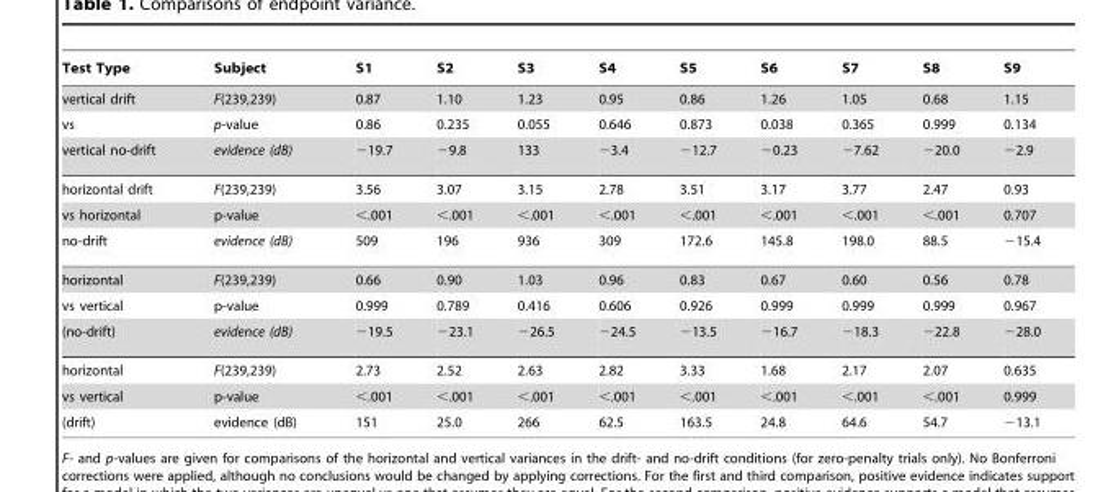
<table><thead><tr><td>Test Type</td><td>Subject</td><td>S1</td><td>S2</td><td>S3</td><td>S4</td><td>S5</td><td>S6</td><td>S7</td><td>S8</td><td>S9</td></tr></thead><tbody><tr><td>vertical drift</td><td>F(239,239)</td><td>0.87</td><td>1.10</td><td>1.23</td><td>0.95</td><td>0.86</td><td>1.26</td><td>1.05</td><td>0.68</td><td>1.15</td></tr><tr><td>vs</td><td>p-value</td><td>0.86</td><td>0.235</td><td>0.055</td><td>0.646</td><td>0.873</td><td>0.038</td><td>0.365</td><td>0.999</td><td>0.134</td></tr><tr><td>vertical no-drift</td><td>evidence (dB)</td><td>−19.7</td><td>−9.8</td><td>133</td><td>−3.4</td><td>−12.7</td><td>−0.23</td><td>−7.62</td><td>−20.0</td><td>−2.9</td></tr><tr><td>horizontal drift</td><td>F(239,239)</td><td>3.56</td><td>3.07</td><td>3.15</td><td>2.78</td><td>3.51</td><td>3.17</td><td>3.77</td><td>2.47</td><td>0.93</td></tr><tr><td>vs horizontal</td><td>p-value</td><td>&lt;.001</td><td>&lt;.001</td><td>&lt;.001</td><td>&lt;.001</td><td>&lt;.001</td><td>&lt;.001</td><td>&lt;.001</td><td>&lt;.001</td><td>0.707</td></tr><tr><td>no-drift</td><td>evidence (dB)</td><td>509</td><td>196</td><td>936</td><td>309</td><td>172.6</td><td>145.8</td><td>198.0</td><td>88.5</td><td>−15.4</td></tr><tr><td>horizontal</td><td>F(239,239)</td><td>0.66</td><td>0.90</td><td>1.03</td><td>0.96</td><td>0.83</td><td>0.67</td><td>0.60</td><td>0.56</td><td>0.78</td></tr><tr><td>vs vertical</td><td>p-value</td><td>0.999</td><td>0.789</td><td>0.416</td><td>0.606</td><td>0.926</td><td>0.999</td><td>0.999</td><td>0.999</td><td>0.967</td></tr><tr><td>(no-drift)</td><td>evidence (dB)</td><td>−19.5</td><td>−23.1</td><td>−26.5</td><td>−24.5</td><td>−13.5</td><td>−16.7</td><td>−18.3</td><td>−22.8</td><td>−28.0</td></tr><tr><td>horizontal</td><td>F(239,239)</td><td>2.73</td><td>2.52</td><td>2.63</td><td>2.82</td><td>3.33</td><td>1.68</td><td>2.17</td><td>2.07</td><td>0.635</td></tr><tr><td>vs vertical</td><td>p-value</td><td>&lt;.001</td><td>&lt;.001</td><td>&lt;.001</td><td>&lt;.001</td><td>&lt;.001</td><td>&lt;.001</td><td>&lt;.001</td><td>&lt;.001</td><td>0.999</td></tr><tr><td>(drift)</td><td>evidence (dB)</td><td>151</td><td>25.0</td><td>266</td><td>62.5</td><td>163.5</td><td>24.8</td><td>64.6</td><td>54.7</td><td>−13.1</td></tr></tbody></table>